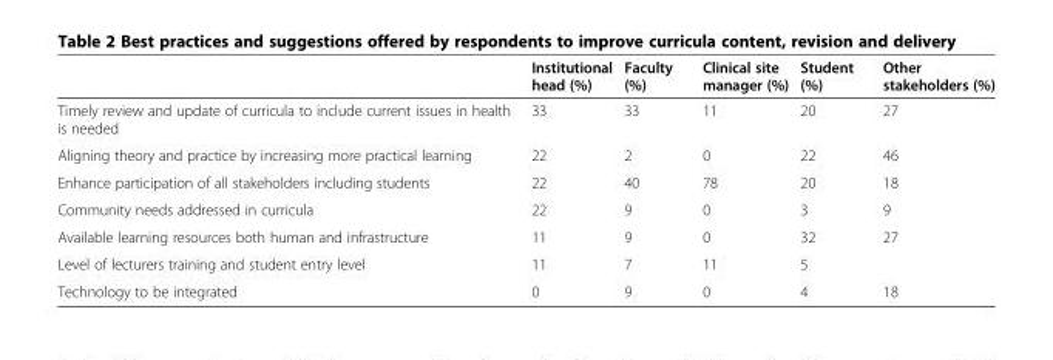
<table><thead><tr><td></td><td>Institutional head (%)</td><td>Faculty (%)</td><td>Clinical site manager (%)</td><td>Student (%)</td><td>Other stakeholders (%)</td></tr></thead><tbody><tr><td>Timely review and update of curricula to include current issues in health is needed</td><td>33</td><td>33</td><td>11</td><td>20</td><td>27</td></tr><tr><td>Aligning theory and practice by increasing more practical learning</td><td>22</td><td>2</td><td>0</td><td>22</td><td>46</td></tr><tr><td>Enhance participation of all stakeholders including students</td><td>22</td><td>40</td><td>78</td><td>20</td><td>18</td></tr><tr><td>Community needs addressed in curricula</td><td>22</td><td>9</td><td>0</td><td>3</td><td>9</td></tr><tr><td>Available learning resources both human and infrastructure</td><td>11</td><td>9</td><td>0</td><td>32</td><td>27</td></tr><tr><td>Level of lecturers training and student entry level</td><td>11</td><td>7</td><td>11</td><td>5</td><td></td></tr><tr><td>Technology to be integrated</td><td>0</td><td>9</td><td>0</td><td>4</td><td>18</td></tr></tbody></table>